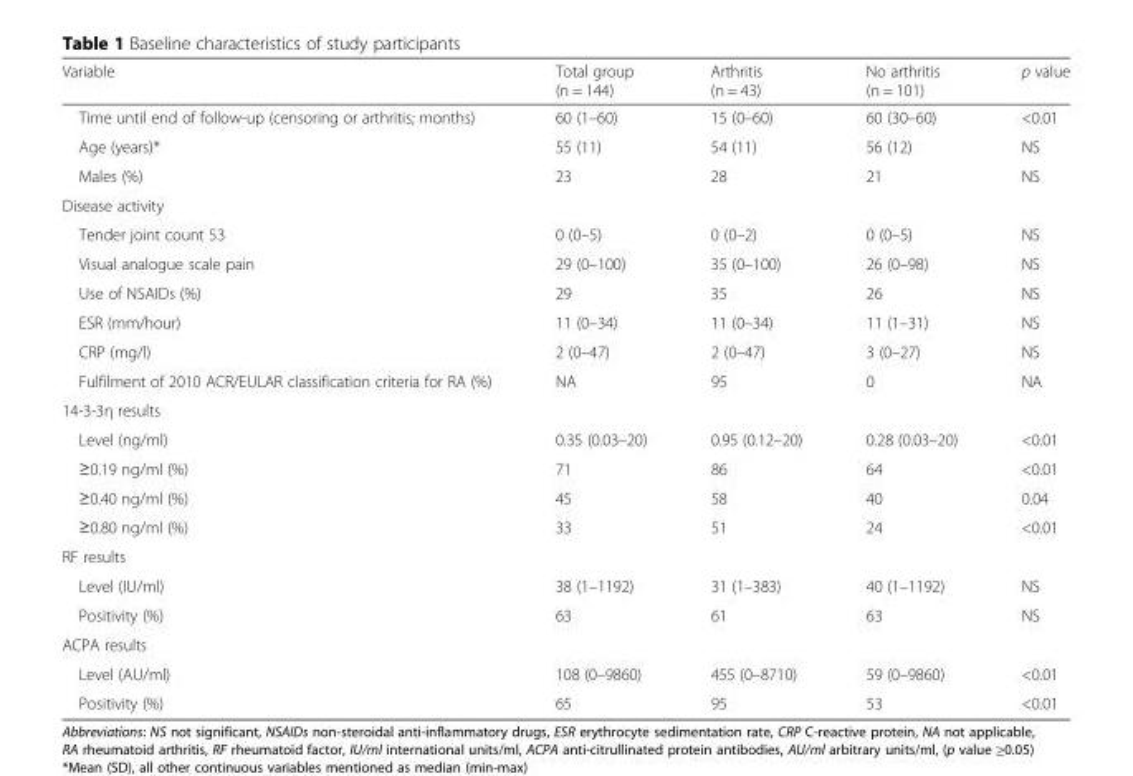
<table><thead><tr><td>Variable</td><td>Total group (n = 144)</td><td>Arthritis (n = 43)</td><td>No arthritis (n = 101)</td><td>p value</td></tr></thead><tbody><tr><td>Time until end of follow-up (censoring or arthritis; months)</td><td>60 (1–60)</td><td>15 (0–60)</td><td>60 (30–60)</td><td>&lt;0.01</td></tr><tr><td>Age (years)*</td><td>55 (11)</td><td>54 (11)</td><td>56 (12)</td><td>NS</td></tr><tr><td>Males (%)</td><td>23</td><td>28</td><td>21</td><td>NS</td></tr><tr><td colspan="5">Disease activity</td></tr><tr><td>Tender joint count 53</td><td>0 (0–5)</td><td>0 (0–2)</td><td>0 (0–5)</td><td>NS</td></tr><tr><td>Visual analogue scale pain</td><td>29 (0–100)</td><td>35 (0–100)</td><td>26 (0–98)</td><td>NS</td></tr><tr><td>Use of NSAIDs (%)</td><td>29</td><td>35</td><td>26</td><td>NS</td></tr><tr><td>ESR (mm/hour)</td><td>11 (0–34)</td><td>11 (0–34)</td><td>11 (1–31)</td><td>NS</td></tr><tr><td>CRP (mg/l)</td><td>2 (0–47)</td><td>2 (0–47)</td><td>3 (0–27)</td><td>NS</td></tr><tr><td>Fulfilment of 2010 ACR/EULAR classification criteria for RA (%)</td><td>NA</td><td>95</td><td>0</td><td>NA</td></tr><tr><td colspan="5">14-3-3η results</td></tr><tr><td>Level (ng/ml)</td><td>0.35 (0.03–20)</td><td>0.95 (0.12–20)</td><td>0.28 (0.03–20)</td><td>&lt;0.01</td></tr><tr><td>≥0.19 ng/ml (%)</td><td>71</td><td>86</td><td>64</td><td>&lt;0.01</td></tr><tr><td>≥0.40 ng/ml (%)</td><td>45</td><td>58</td><td>40</td><td>0.04</td></tr><tr><td>≥0.80 ng/ml (%)</td><td>33</td><td>51</td><td>24</td><td>&lt;0.01</td></tr><tr><td colspan="5">RF results</td></tr><tr><td>Level (IU/ml)</td><td>38 (1–1192)</td><td>31 (1–383)</td><td>40 (1–1192)</td><td>NS</td></tr><tr><td>Positivity (%)</td><td>63</td><td>61</td><td>63</td><td>NS</td></tr><tr><td colspan="5">ACPA results</td></tr><tr><td>Level (AU/ml)</td><td>108 (0–9860)</td><td>455 (0–8710)</td><td>59 (0–9860)</td><td>&lt;0.01</td></tr><tr><td>Positivity (%)</td><td>65</td><td>95</td><td>53</td><td>&lt;0.01</td></tr></tbody></table>